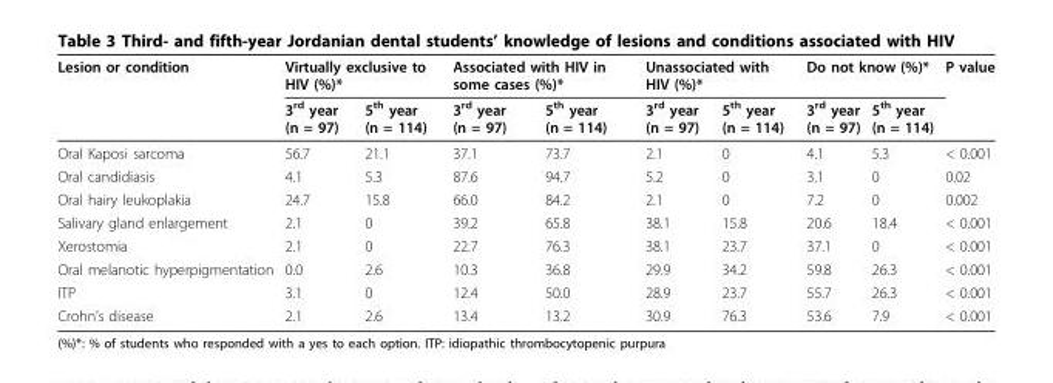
<table><thead><tr><td rowspan="2">Lesion or condition</td><td colspan="2">Virtually exclusive to HIV (%)*</td><td colspan="2">Associated with HIV in some cases (%)*</td><td colspan="2">Unassociated with HIV (%)*</td><td colspan="2">Do not know (%)*</td><td rowspan="2">P value</td></tr><tr><td>3<sup>rd</sup> year (n = 97)</td><td>5<sup>th</sup> year (n = 114)</td><td>3<sup>rd</sup> year (n = 97)</td><td>5<sup>th</sup> year (n = 114)</td><td>3<sup>rd</sup> year (n = 97)</td><td>5<sup>th</sup> year (n = 114)</td><td>3<sup>rd</sup> year (n = 97)</td><td>5<sup>th</sup> year (n = 114)</td></tr></thead><tbody><tr><td>Oral Kaposi sarcoma</td><td>56.7</td><td>21.1</td><td>37.1</td><td>73.7</td><td>2.1</td><td>0</td><td>4.1</td><td>5.3</td><td>&lt; 0.001</td></tr><tr><td>Oral candidiasis</td><td>4.1</td><td>5.3</td><td>87.6</td><td>94.7</td><td>5.2</td><td>0</td><td>3.1</td><td>0</td><td>0.02</td></tr><tr><td>Oral hairy leukoplakia</td><td>24.7</td><td>15.8</td><td>66.0</td><td>84.2</td><td>2.1</td><td>0</td><td>7.2</td><td>0</td><td>0.002</td></tr><tr><td>Salivary gland enlargement</td><td>2.1</td><td>0</td><td>39.2</td><td>65.8</td><td>38.1</td><td>15.8</td><td>20.6</td><td>18.4</td><td>&lt; 0.001</td></tr><tr><td>Xerostomia</td><td>2.1</td><td>0</td><td>22.7</td><td>76.3</td><td>38.1</td><td>23.7</td><td>37.1</td><td>0</td><td>&lt; 0.001</td></tr><tr><td>Oral melanotic hyperpigmentation</td><td>0.0</td><td>2.6</td><td>10.3</td><td>36.8</td><td>29.9</td><td>34.2</td><td>59.8</td><td>26.3</td><td>&lt; 0.001</td></tr><tr><td>ITP</td><td>3.1</td><td>0</td><td>12.4</td><td>50.0</td><td>28.9</td><td>23.7</td><td>55.7</td><td>26.3</td><td>&lt; 0.001</td></tr><tr><td>Crohn’s disease</td><td>2.1</td><td>2.6</td><td>13.4</td><td>13.2</td><td>30.9</td><td>76.3</td><td>53.6</td><td>7.9</td><td>&lt; 0.001</td></tr></tbody></table>